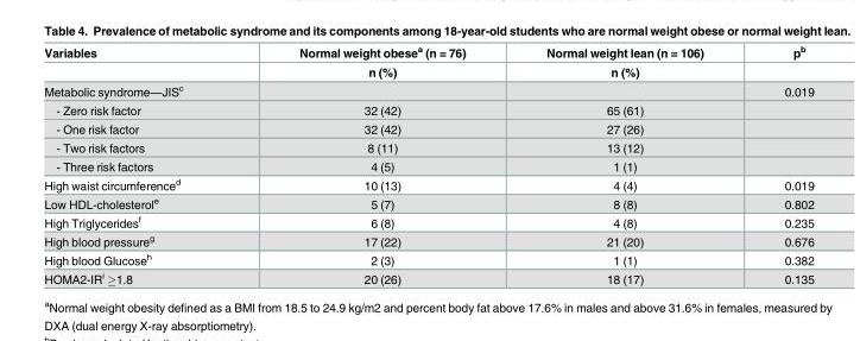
<table><thead><tr><td rowspan="2">Variables</td><td rowspan="2">Normal weight obese<sup>a</sup> (n = 76) n (%)</td><td rowspan="2">Normal weight lean (n = 106) n (%)</td><td rowspan="2">p<sup>b</sup></td></tr><tr></tr></thead><tbody><tr><td>Metabolic syndrome—JIS<sup>c</sup></td><td></td><td></td><td>0.019</td></tr><tr><td>- Zero risk factor</td><td>32 (42)</td><td>65 (61)</td><td></td></tr><tr><td>- One risk factor</td><td>32 (42)</td><td>27 (26)</td><td></td></tr><tr><td>- Two risk factors</td><td>8 (11)</td><td>13 (12)</td><td></td></tr><tr><td>- Three risk factors</td><td>4 (5)</td><td>1 (1)</td><td></td></tr><tr><td>High waist circumference<sup>d</sup></td><td>10 (13)</td><td>4 (4)</td><td>0.019</td></tr><tr><td>Low HDL-cholesterol<sup>e</sup></td><td>5 (7)</td><td>8 (8)</td><td>0.802</td></tr><tr><td>High Triglycerides<sup>f</sup></td><td>6 (8)</td><td>4 (8)</td><td>0.235</td></tr><tr><td>High blood pressure<sup>g</sup></td><td>17 (22)</td><td>21 (20)</td><td>0.676</td></tr><tr><td>High blood Glucose<sup>h</sup></td><td>2 (3)</td><td>1 (1)</td><td>0.382</td></tr><tr><td>HOMA2-IR<sup>i</sup> ≥1.8</td><td>20 (26)</td><td>18 (17)</td><td>0.135</td></tr></tbody></table>